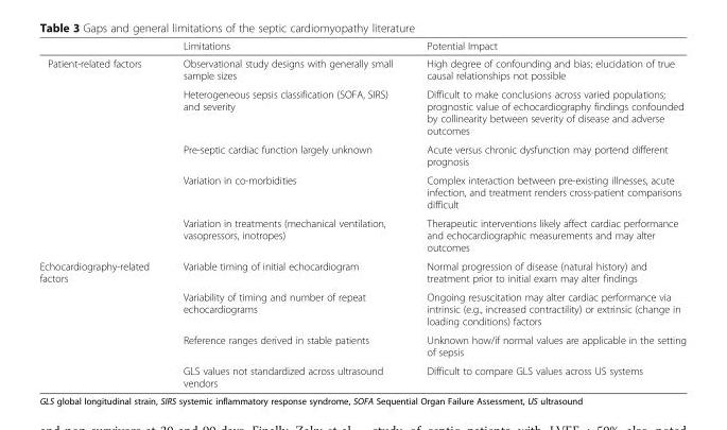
<table><thead><tr><td></td><td>Limitations</td><td>Potential Impact</td></tr></thead><tbody><tr><td rowspan="5">Patient-related factors</td><td>Observational study designs with generally small sample sizes</td><td>High degree of confounding and bias; elucidation of true causal relationships not possible</td></tr><tr><td>Heterogeneous sepsis classification (SOFA, SIRS) and severity</td><td>Difficult to make conclusions across varied populations; prognostic value of echocardiography findings confounded by collinearity between severity of disease and adverse outcomes</td></tr><tr><td>Pre-septic cardiac function largely unknown</td><td>Acute versus chronic dysfunction may portend different prognosis</td></tr><tr><td>Variation in co-morbidities</td><td>Complex interaction between pre-existing illnesses, acute infection, and treatment renders cross-patient comparisons difficult</td></tr><tr><td>Variation in treatments (mechanical ventilation, vasopressors, inotropes)</td><td>Therapeutic interventions likely affect cardiac performance and echocardiographic measurements and may alter outcomes</td></tr><tr><td rowspan="4">Echocardiography-related factors</td><td>Variable timing of initial echocardiogram</td><td>Normal progression of disease (natural history) and treatment prior to initial exam may alter findings</td></tr><tr><td>Variability of timing and number of repeat echocardiograms</td><td>Ongoing resuscitation may alter cardiac performance via intrinsic (e.g., increased contractility) or extrinsic (change in loading conditions) factors</td></tr><tr><td>Reference ranges derived in stable patients</td><td>Unknown how/if normal values are applicable in the setting of sepsis</td></tr><tr><td>GLS values not standardized across ultrasound vendors</td><td>Difficult to compare GLS values across US systems</td></tr></tbody></table>